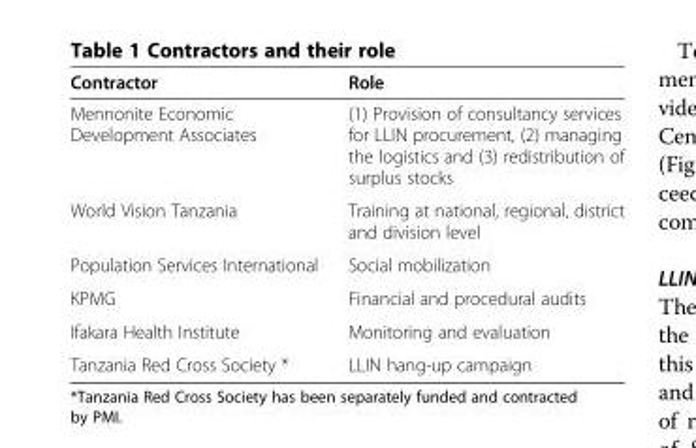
<table><thead><tr><td>Contractor</td><td>Role</td></tr></thead><tbody><tr><td>Mennonite Economic Development Associates</td><td>(1) Provision of consultancy services for LLIN procurement, (2) managing the logistics and (3) redistribution of surplus stocks</td></tr><tr><td>World Vision Tanzania</td><td>Training at national, regional, district and division level</td></tr><tr><td>Population Services International</td><td>Social mobilization</td></tr><tr><td>KPMG</td><td>Financial and procedural audits</td></tr><tr><td>Ifakara Health Institute</td><td>Monitoring and evaluation</td></tr><tr><td>Tanzania Red Cross Society *</td><td>LLIN hang-up campaign</td></tr></tbody></table>